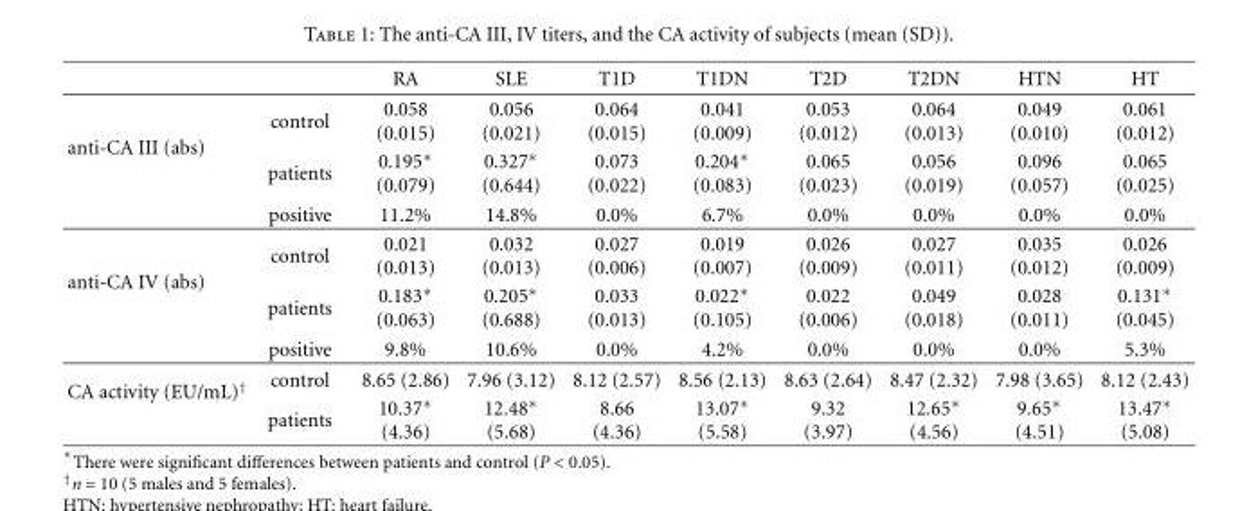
<table><thead><tr><td></td><td></td><td>RA</td><td>SLE</td><td>T1D</td><td>T1DN</td><td>T2D</td><td>T2DN</td><td>HTN</td><td>HT</td></tr></thead><tbody><tr><td rowspan="3">anti-CA III (abs)</td><td>control</td><td>0.058 (0.015)</td><td>0.056 (0.021)</td><td>0.064 (0.015)</td><td>0.041 (0.009)</td><td>0.053 (0.012)</td><td>0.064 (0.013)</td><td>0.049 (0.010)</td><td>0.061 (0.012)</td></tr><tr><td>patients</td><td>0.195∗ (0.079)</td><td>0.327∗ (0.644)</td><td>0.073 (0.022)</td><td>0.204∗ (0.083)</td><td>0.065 (0.023)</td><td>0.056 (0.019)</td><td>0.096 (0.057)</td><td>0.065 (0.025)</td></tr><tr><td>positive</td><td>11.2%</td><td>14.8%</td><td>0.0%</td><td>6.7%</td><td>0.0%</td><td>0.0%</td><td>0.0%</td><td>0.0%</td></tr><tr><td rowspan="3">anti-CA IV (abs)</td><td>control</td><td>0.021 (0.013)</td><td>0.032 (0.013)</td><td>0.027 (0.006)</td><td>0.019 (0.007)</td><td>0.026 (0.009)</td><td>0.027 (0.011)</td><td>0.035 (0.012)</td><td>0.026 (0.009)</td></tr><tr><td>patients</td><td>0.183∗ (0.063)</td><td>0.205∗ (0.688)</td><td>0.033 (0.013)</td><td>0.022∗ (0.105)</td><td>0.022 (0.006)</td><td>0.049 (0.018)</td><td>0.028 (0.011)</td><td>0.131∗ (0.045)</td></tr><tr><td>positive</td><td>9.8%</td><td>10.6%</td><td>0.0%</td><td>4.2%</td><td>0.0%</td><td>0.0%</td><td>0.0%</td><td>5.3%</td></tr><tr><td rowspan="2">CA activity (EU/mL)†</td><td>control</td><td>8.65 (2.86)</td><td>7.96 (3.12)</td><td>8.12 (2.57)</td><td>8.56 (2.13)</td><td>8.63 (2.64)</td><td>8.47 (2.32)</td><td>7.98 (3.65)</td><td>8.12 (2.43)</td></tr><tr><td>patients</td><td>10.37∗ (4.36)</td><td>12.48∗ (5.68)</td><td>8.66 (4.36)</td><td>13.07∗ (5.58)</td><td>9.32 (3.97)</td><td>12.65∗ (4.56)</td><td>9.65∗ (4.51)</td><td>13.47∗ (5.08)</td></tr></tbody></table>